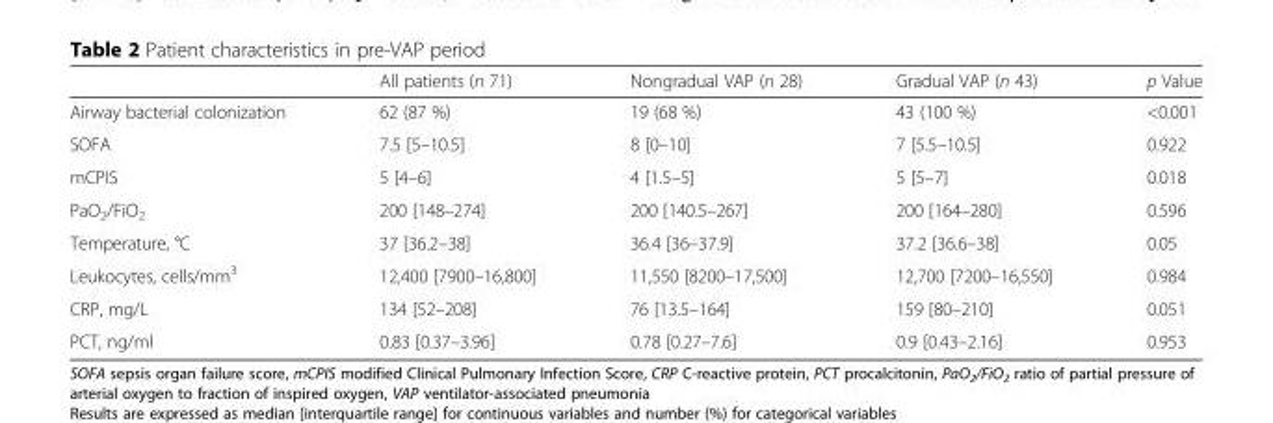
<table><thead><tr><td></td><td>All patients (n 71)</td><td>Nongradual VAP (n 28)</td><td>Gradual VAP (n 43)</td><td>p Value</td></tr></thead><tbody><tr><td>Airway bacterial colonization</td><td>62 (87 %)</td><td>19 (68 %)</td><td>43 (100 %)</td><td>&lt;0.001</td></tr><tr><td>SOFA</td><td>7.5 [5–10.5]</td><td>8 [0–10]</td><td>7 [5.5–10.5]</td><td>0.922</td></tr><tr><td>mCPIS</td><td>5 [4–6]</td><td>4 [1.5–5]</td><td>5 [5–7]</td><td>0.018</td></tr><tr><td>PaO<sub>2</sub>/FiO<sub>2</sub></td><td>200 [148–274]</td><td>200 [140.5–267]</td><td>200 [164–280]</td><td>0.596</td></tr><tr><td>Temperature, °C</td><td>37 [36.2–38]</td><td>36.4 [36–37.9]</td><td>37.2 [36.6–38]</td><td>0.05</td></tr><tr><td>Leukocytes, cells/mm<sup>3</sup></td><td>12,400 [7900–16,800]</td><td>11,550 [8200–17,500]</td><td>12,700 [7200–16,550]</td><td>0.984</td></tr><tr><td>CRP, mg/L</td><td>134 [52–208]</td><td>76 [13.5–164]</td><td>159 [80–210]</td><td>0.051</td></tr><tr><td>PCT, ng/ml</td><td>0.83 [0.37–3.96]</td><td>0.78 [0.27–7.6]</td><td>0.9 [0.43–2.16]</td><td>0.953</td></tr></tbody></table>